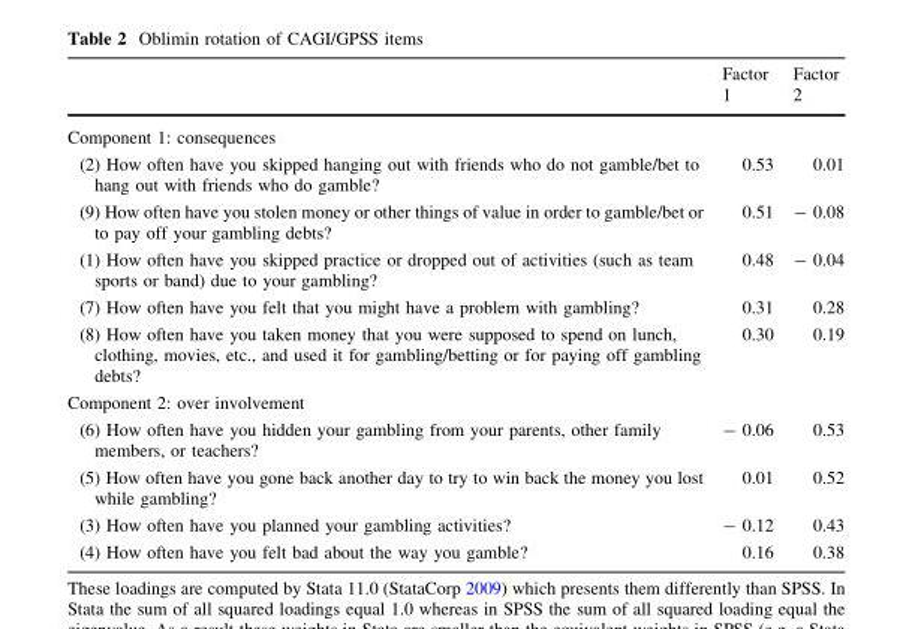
<table><thead><tr><td></td><td>Factor 1</td><td>Factor 2</td></tr></thead><tbody><tr><td colspan="3">Component 1: consequences</td></tr><tr><td>(2) How often have you skipped hanging out with friends who do not gamble/bet to hang out with friends who do gamble?</td><td>0.53</td><td>0.01</td></tr><tr><td>(9) How often have you stolen money or other things of value in order to gamble/bet or to pay off your gambling debts?</td><td>0.51</td><td>- 0.08</td></tr><tr><td>(1) How often have you skipped practice or dropped out of activities (such as team sports or band) due to your gambling?</td><td>0.48</td><td>- 0.04</td></tr><tr><td>(7) How often have you felt that you might have a problem with gambling?</td><td>0.31</td><td>0.28</td></tr><tr><td>(8) How often have you taken money that you were supposed to spend on lunch, clothing, movies, etc., and used it for gambling/betting or for paying off gambling debts?</td><td>0.30</td><td>0.19</td></tr><tr><td colspan="3">Component 2: over involvement</td></tr><tr><td>(6) How often have you hidden your gambling from your parents, other family members, or teachers?</td><td>- 0.06</td><td>0.53</td></tr><tr><td>(5) How often have you gone back another day to try to win back the money you lost while gambling?</td><td>0.01</td><td>0.52</td></tr><tr><td>(3) How often have you planned your gambling activities?</td><td>- 0.12</td><td>0.43</td></tr><tr><td>(4) How often have you felt bad about the way you gamble?</td><td>0.16</td><td>0.38</td></tr></tbody></table>